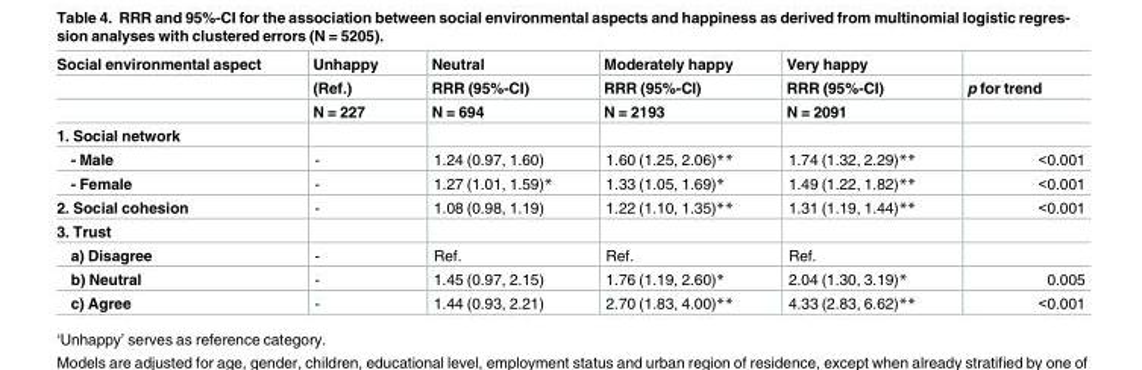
<table><thead><tr><td rowspan="3">Social environmental aspect</td><td rowspan="3">Unhappy (Ref.) N = 227</td><td rowspan="3">Neutral RRR (95%-CI) N = 694</td><td rowspan="3">Moderately happy RRR (95%-CI) N = 2193</td><td rowspan="3">Very happy RRR (95%-CI) N = 2091</td><td rowspan="3">p for trend</td></tr><tr></tr><tr></tr></thead><tbody><tr><td colspan="6">1. Social network</td></tr><tr><td>- Male</td><td>-</td><td>1.24 (0.97, 1.60)</td><td>1.60 (1.25, 2.06)**</td><td>1.74 (1.32, 2.29)**</td><td>&lt;0.001</td></tr><tr><td>- Female</td><td>-</td><td>1.27 (1.01, 1.59)*</td><td>1.33 (1.05, 1.69)*</td><td>1.49 (1.22, 1.82)**</td><td>&lt;0.001</td></tr><tr><td>2. Social cohesion</td><td>-</td><td>1.08 (0.98, 1.19)</td><td>1.22 (1.10, 1.35)**</td><td>1.31 (1.19, 1.44)**</td><td>&lt;0.001</td></tr><tr><td colspan="6">3. Trust</td></tr><tr><td>a) Disagree</td><td>-</td><td>Ref.</td><td>Ref.</td><td>Ref.</td><td></td></tr><tr><td>b) Neutral</td><td>-</td><td>1.45 (0.97, 2.15)</td><td>1.76 (1.19, 2.60)*</td><td>2.04 (1.30, 3.19)*</td><td>0.005</td></tr><tr><td>c) Agree</td><td>-</td><td>1.44 (0.93, 2.21)</td><td>2.70 (1.83, 4.00)**</td><td>4.33 (2.83, 6.62)**</td><td>&lt;0.001</td></tr></tbody></table>